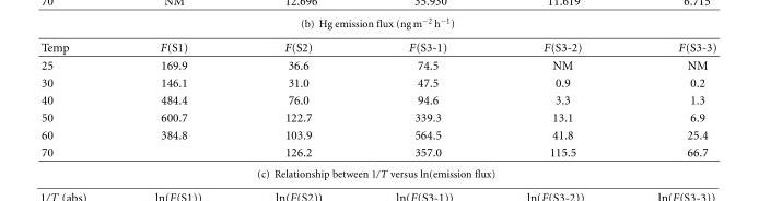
<table><thead><tr><td>Temp</td><td>F(S1)</td><td>F(S2)</td><td>F(S3-1)</td><td>F(S3-2)</td><td>F(S3-3)</td></tr></thead><tbody><tr><td>25</td><td>169.9</td><td>36.6</td><td>74.5</td><td>NM</td><td>NM</td></tr><tr><td>30</td><td>146.1</td><td>31.0</td><td>47.5</td><td>0.9</td><td>0.2</td></tr><tr><td>40</td><td>484.4</td><td>76.0</td><td>94.6</td><td>3.3</td><td>1.3</td></tr><tr><td>50</td><td>600.7</td><td>122.7</td><td>339.3</td><td>13.1</td><td>6.9</td></tr><tr><td>60</td><td>384.8</td><td>103.9</td><td>564.5</td><td>41.8</td><td>25.4</td></tr><tr><td>70</td><td></td><td>126.2</td><td>357.0</td><td>115.5</td><td>66.7</td></tr></tbody></table>